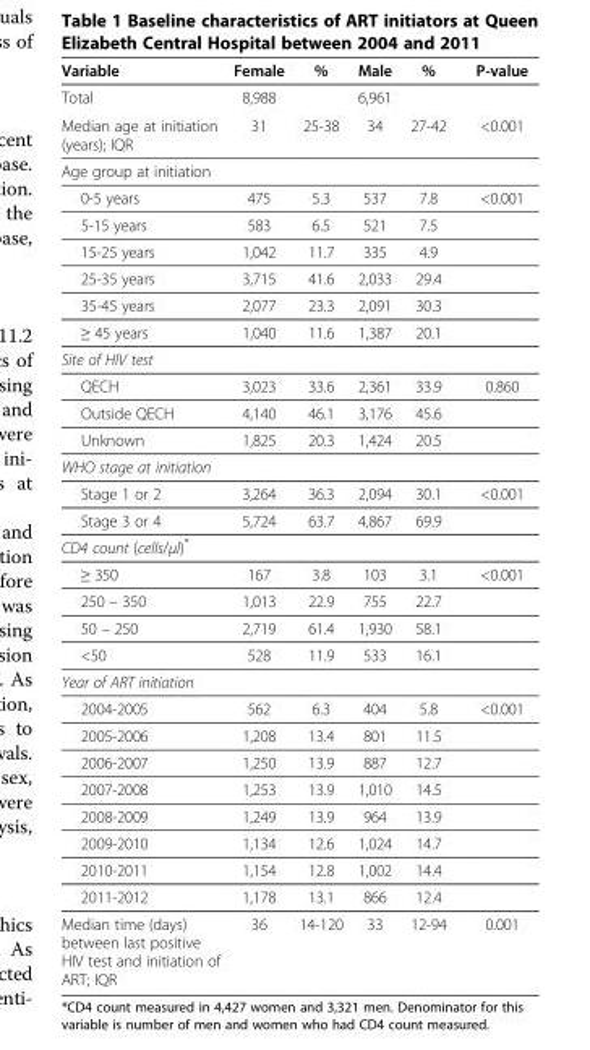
<table><thead><tr><td>Variable</td><td>Female</td><td>%</td><td>Male</td><td>%</td><td>P-value</td></tr></thead><tbody><tr><td>Total</td><td>8,988</td><td></td><td>6,961</td><td></td><td></td></tr><tr><td>Median age at initiation (years); IQR</td><td>31</td><td>25-38</td><td>34</td><td>27-42</td><td>&lt;0.001</td></tr><tr><td colspan="6">Age group at initiation</td></tr><tr><td>0-5 years</td><td>475</td><td>5.3</td><td>537</td><td>7.8</td><td>&lt;0.001</td></tr><tr><td>5-15 years</td><td>583</td><td>6.5</td><td>521</td><td>7.5</td><td></td></tr><tr><td>15-25 years</td><td>1,042</td><td>11.7</td><td>335</td><td>4.9</td><td></td></tr><tr><td>25-35 years</td><td>3,715</td><td>41.6</td><td>2,033</td><td>29.4</td><td></td></tr><tr><td>35-45 years</td><td>2,077</td><td>23.3</td><td>2,091</td><td>30.3</td><td></td></tr><tr><td>≥ 45 years</td><td>1,040</td><td>11.6</td><td>1,387</td><td>20.1</td><td></td></tr><tr><td colspan="6">Site of HIV test</td></tr><tr><td>QECH</td><td>3,023</td><td>33.6</td><td>2,361</td><td>33.9</td><td>0.860</td></tr><tr><td>Outside QECH</td><td>4,140</td><td>46.1</td><td>3,176</td><td>45.6</td><td></td></tr><tr><td>Unknown</td><td>1,825</td><td>20.3</td><td>1,424</td><td>20.5</td><td></td></tr><tr><td colspan="6">WHO stage at initiation</td></tr><tr><td>Stage 1 or 2</td><td>3,264</td><td>36.3</td><td>2,094</td><td>30.1</td><td>&lt;0.001</td></tr><tr><td>Stage 3 or 4</td><td>5,724</td><td>63.7</td><td>4,867</td><td>69.9</td><td></td></tr><tr><td colspan="6">CD4 count (cells/μl)*</td></tr><tr><td>≥ 350</td><td>167</td><td>3.8</td><td>103</td><td>3.1</td><td>&lt;0.001</td></tr><tr><td>250 – 350</td><td>1,013</td><td>22.9</td><td>755</td><td>22.7</td><td></td></tr><tr><td>50 – 250</td><td>2,719</td><td>61.4</td><td>1,930</td><td>58.1</td><td></td></tr><tr><td>&lt;50</td><td>528</td><td>11.9</td><td>533</td><td>16.1</td><td></td></tr><tr><td colspan="6">Year of ART initiation</td></tr><tr><td>2004-2005</td><td>562</td><td>6.3</td><td>404</td><td>5.8</td><td>&lt;0.001</td></tr><tr><td>2005-2006</td><td>1,208</td><td>13.4</td><td>801</td><td>11.5</td><td></td></tr><tr><td>2006-2007</td><td>1,250</td><td>13.9</td><td>887</td><td>12.7</td><td></td></tr><tr><td>2007-2008</td><td>1,253</td><td>13.9</td><td>1,010</td><td>14.5</td><td></td></tr><tr><td>2008-2009</td><td>1,249</td><td>13.9</td><td>964</td><td>13.9</td><td></td></tr><tr><td>2009-2010</td><td>1,134</td><td>12.6</td><td>1,024</td><td>14.7</td><td></td></tr><tr><td>2010-2011</td><td>1,154</td><td>12.8</td><td>1,002</td><td>14.4</td><td></td></tr><tr><td>2011-2012</td><td>1,178</td><td>13.1</td><td>866</td><td>12.4</td><td></td></tr><tr><td>Median time (days) between last positive HIV test and initiation of ART; IQR</td><td>36</td><td>14-120</td><td>33</td><td>12-94</td><td>0.001</td></tr></tbody></table>